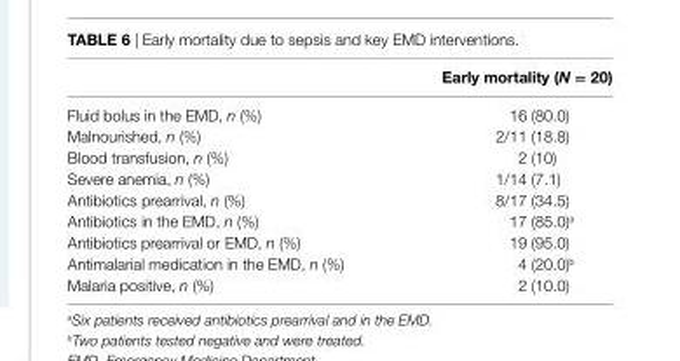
<table><thead><tr><td></td><td>early mortality (N = 20)</td></tr></thead><tbody><tr><td>Fluid bolus in the EMD, n (%)</td><td>16 (80.0)</td></tr><tr><td>Malnourished, n (%)</td><td>2/11 (18.8)</td></tr><tr><td>Blood transfusion, n (%)</td><td>2 (10)</td></tr><tr><td>Severe anemia, n (%)</td><td>1/14 (7.1)</td></tr><tr><td>Antibiotics prearrival, n (%)</td><td>8/17 (34.5)</td></tr><tr><td>Antibiotics in the EMD, n (%)</td><td>17 (85.0)<sup>a</sup></td></tr><tr><td>Antibiotics prearrival or EMD, n (%)</td><td>19 (95.0)</td></tr><tr><td>Antimalarial medication in the EMD, n (%)</td><td>4 (20.0)<sup>b</sup></td></tr><tr><td>Malaria positive, n (%)</td><td>2 (10.0)</td></tr></tbody></table>